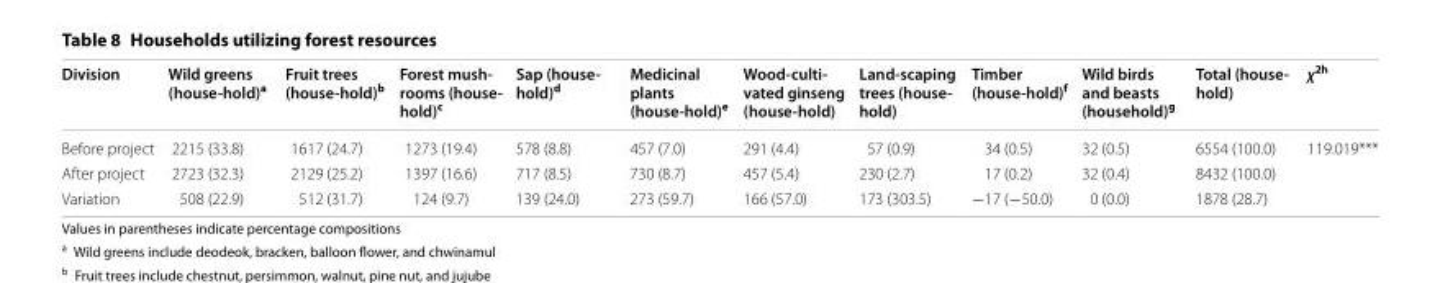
<table><thead><tr><td>Division</td><td>Wild greens (house-hold)<sup>a</sup></td><td>Fruit trees (house-hold)<sup>b</sup></td><td>Forest mush- rooms (house- hold)<sup>c</sup></td><td>Sap (house- hold)<sup>d</sup></td><td>Medicinal plants (house-hold)<sup>e</sup></td><td>Wood-culti- vated ginseng (house-hold)</td><td>Land-scaping trees (house- hold)</td><td>Timber (house-hold)<sup>f</sup></td><td>Wild birds and beasts (household)<sup>g</sup></td><td>Total (house- hold)</td><td>χ<sup>2h</sup></td></tr></thead><tbody><tr><td>Before project</td><td>2215 (33.8)</td><td>1617 (24.7)</td><td>1273 (19.4)</td><td>578 (8.8)</td><td>457 (7.0)</td><td>291 (4.4)</td><td>57 (0.9)</td><td>34 (0.5)</td><td>32 (0.5)</td><td>6554 (100.0)</td><td rowspan="2">119.019***</td></tr><tr><td>After project</td><td>2723 (32.3)</td><td>2129 (25.2)</td><td>1397 (16.6)</td><td>717 (8.5)</td><td>730 (8.7)</td><td>457 (5.4)</td><td>230 (2.7)</td><td>17 (0.2)</td><td>32 (0.4)</td><td>8432 (100.0)</td></tr><tr><td>Variation</td><td>508 (22.9)</td><td>512 (31.7)</td><td>124 (9.7)</td><td>139 (24.0)</td><td>273 (59.7)</td><td>166 (57.0)</td><td>173 (303.5)</td><td>−17 (−50.0)</td><td>0 (0.0)</td><td>1878 (28.7)</td><td></td></tr></tbody></table>